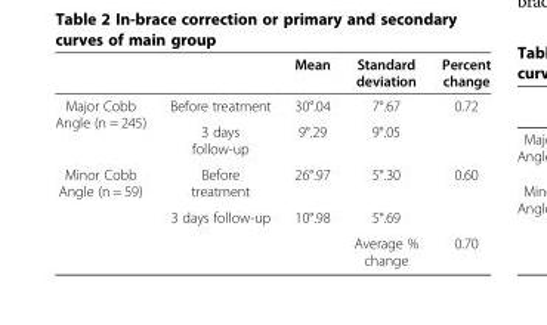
<table><thead><tr><td></td><td></td><td>Mean</td><td>Standard deviation</td><td>Percent change</td></tr></thead><tbody><tr><td rowspan="2">Major Cobb Angle (n = 245)</td><td>Before treatment</td><td>30°.04</td><td>7°.67</td><td rowspan="2">0.72</td></tr><tr><td>3 days follow-up</td><td>9°.29</td><td>9°.05</td></tr><tr><td rowspan="2">Minor Cobb Angle (n = 59)</td><td>Before treatment</td><td>26°.97</td><td>5°.30</td><td rowspan="2">0.60</td></tr><tr><td>3 days follow-up</td><td>10°.98</td><td>5°.69</td></tr><tr><td colspan="3"></td><td>Average % change</td><td>0.70</td></tr></tbody></table>